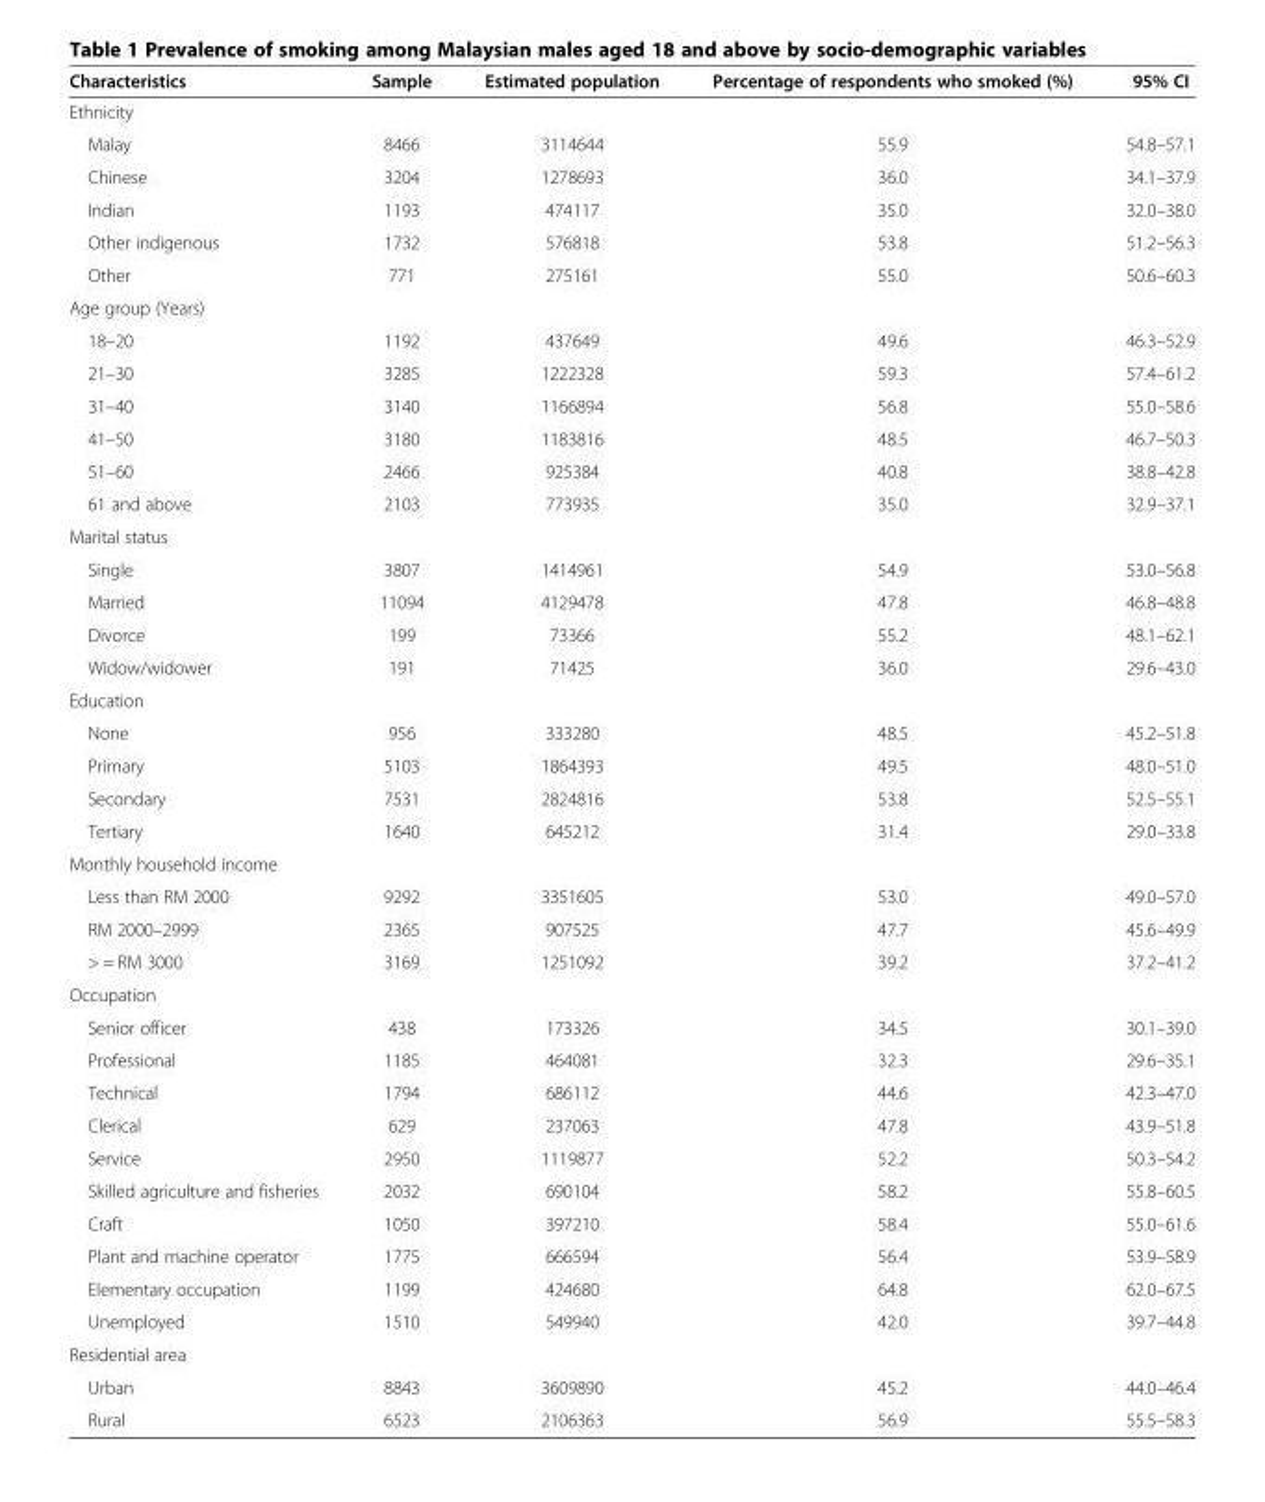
<table><thead><tr><td>Characteristics</td><td>Sample</td><td>Estimated population</td><td>Percentage of respondents who smoked (%)</td><td>95% CI</td></tr></thead><tbody><tr><td colspan="5">Ethnicity</td></tr><tr><td>Malay</td><td>8466</td><td>3114644</td><td>55.9</td><td>54.8–57.1</td></tr><tr><td>Chinese</td><td>3204</td><td>1278693</td><td>36.0</td><td>34.1–37.9</td></tr><tr><td>Indian</td><td>1193</td><td>474117</td><td>35.0</td><td>32.0–38.0</td></tr><tr><td>Other indigenous</td><td>1732</td><td>576818</td><td>53.8</td><td>51.2–56.3</td></tr><tr><td>Other</td><td>771</td><td>275161</td><td>55.0</td><td>50.6–60.3</td></tr><tr><td colspan="5">Age group (Years)</td></tr><tr><td>18–20</td><td>1192</td><td>437649</td><td>49.6</td><td>46.3–52.9</td></tr><tr><td>21–30</td><td>3285</td><td>1222328</td><td>59.3</td><td>57.4–61.2</td></tr><tr><td>31–40</td><td>3140</td><td>1166894</td><td>56.8</td><td>55.0–58.6</td></tr><tr><td>41–50</td><td>3180</td><td>1183816</td><td>48.5</td><td>46.7–50.3</td></tr><tr><td>51–60</td><td>2466</td><td>925384</td><td>40.8</td><td>38.8–42.8</td></tr><tr><td>61 and above</td><td>2103</td><td>773935</td><td>35.0</td><td>32.9–37.1</td></tr><tr><td colspan="5">Marital status</td></tr><tr><td>Single</td><td>3807</td><td>1414961</td><td>54.9</td><td>53.0–56.8</td></tr><tr><td>Married</td><td>11094</td><td>4129478</td><td>47.8</td><td>46.8–48.8</td></tr><tr><td>Divorce</td><td>199</td><td>73366</td><td>55.2</td><td>48.1–62.1</td></tr><tr><td>Widow/widower</td><td>191</td><td>71425</td><td>36.0</td><td>29.6–43.0</td></tr><tr><td colspan="5">Education</td></tr><tr><td>None</td><td>956</td><td>333280</td><td>48.5</td><td>45.2–51.8</td></tr><tr><td>Primary</td><td>5103</td><td>1864393</td><td>49.5</td><td>48.0–51.0</td></tr><tr><td>Secondary</td><td>7531</td><td>2824816</td><td>53.8</td><td>52.5–55.1</td></tr><tr><td>Tertiary</td><td>1640</td><td>645212</td><td>31.4</td><td>29.0–33.8</td></tr><tr><td colspan="5">Monthly household income</td></tr><tr><td>Less than RM 2000</td><td>9292</td><td>3351605</td><td>53.0</td><td>49.0–57.0</td></tr><tr><td>RM 2000–2999</td><td>2365</td><td>907525</td><td>47.7</td><td>45.6–49.9</td></tr><tr><td>&gt; = RM 3000</td><td>3169</td><td>1251092</td><td>39.2</td><td>37.2–41.2</td></tr><tr><td colspan="5">Occupation</td></tr><tr><td>Senior officer</td><td>438</td><td>173326</td><td>34.5</td><td>30.1–39.0</td></tr><tr><td>Professional</td><td>1185</td><td>464081</td><td>32.3</td><td>29.6–35.1</td></tr><tr><td>Technical</td><td>1794</td><td>686112</td><td>44.6</td><td>42.3–47.0</td></tr><tr><td>Clerical</td><td>629</td><td>237063</td><td>47.8</td><td>43.9–51.8</td></tr><tr><td>Service</td><td>2950</td><td>1119877</td><td>52.2</td><td>50.3–54.2</td></tr><tr><td>Skilled agriculture and fisheries</td><td>2032</td><td>690104</td><td>58.2</td><td>55.8–60.5</td></tr><tr><td>Craft</td><td>1050</td><td>397210</td><td>58.4</td><td>55.0–61.6</td></tr><tr><td>Plant and machine operator</td><td>1775</td><td>666594</td><td>56.4</td><td>53.9–58.9</td></tr><tr><td>Elementary occupation</td><td>1199</td><td>424680</td><td>64.8</td><td>62.0–67.5</td></tr><tr><td>Unemployed</td><td>1510</td><td>549940</td><td>42.0</td><td>39.7–44.8</td></tr><tr><td colspan="5">Residential area</td></tr><tr><td>Urban</td><td>8843</td><td>3609890</td><td>45.2</td><td>44.0–46.4</td></tr><tr><td>Rural</td><td>6523</td><td>2106363</td><td>56.9</td><td>55.5–58.3</td></tr></tbody></table>